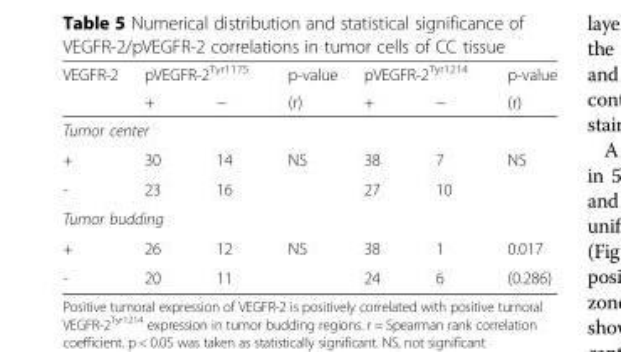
<table><thead><tr><td rowspan="2">VEGFR-2</td><td colspan="2">pVEGFR-2<sup>Tyr1175</sup></td><td rowspan="2">p-value (r)</td><td colspan="2">pVEGFR-2<sup>Tyr1214</sup></td><td rowspan="2">p-value (r)</td></tr><tr><td>+</td><td>−</td><td>+</td><td>−</td></tr></thead><tbody><tr><td colspan="7">Tumor center</td></tr><tr><td>+</td><td>30</td><td>14</td><td>NS</td><td>38</td><td>7</td><td>NS</td></tr><tr><td>-</td><td>23</td><td>16</td><td></td><td>27</td><td>10</td><td></td></tr><tr><td colspan="7">Tumor budding</td></tr><tr><td>+</td><td>26</td><td>12</td><td>NS</td><td>38</td><td>1</td><td>0.017</td></tr><tr><td>-</td><td>20</td><td>11</td><td></td><td>24</td><td>6</td><td>(0.286)</td></tr></tbody></table>